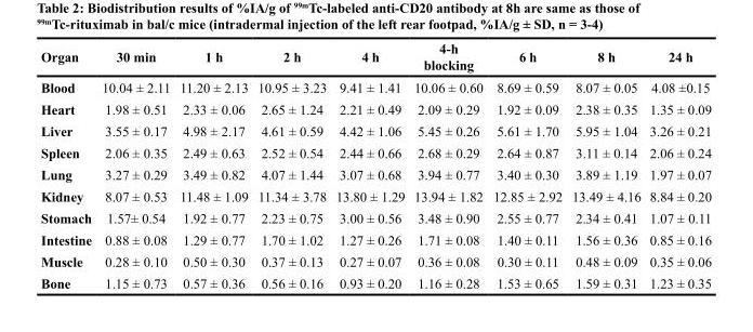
<table><thead><tr><td>Organ</td><td>30 min</td><td>1 h</td><td>2 h</td><td>4 h</td><td>4-h blocking</td><td>6 h</td><td>8 h</td><td>24 h</td></tr></thead><tbody><tr><td>Blood</td><td>10.04 ± 2.11</td><td>11.20 ± 2.13</td><td>10.95 ± 3.23</td><td>9.41 ± 1.41</td><td>10.06 ± 0.60</td><td>8.69 ± 0.59</td><td>8.07 ± 0.05</td><td>4.08 ±0.15</td></tr><tr><td>Heart</td><td>1.98 ± 0.51</td><td>2.33 ± 0.06</td><td>2.65 ± 1.24</td><td>2.21 ± 0.49</td><td>2.09 ± 0.29</td><td>1.92 ± 0.09</td><td>2.38 ± 0.35</td><td>1.35 ± 0.09</td></tr><tr><td>Liver</td><td>3.55 ± 0.17</td><td>4.98 ± 2.17</td><td>4.61 ± 0.59</td><td>4.42 ± 1.06</td><td>5.45 ± 0.26</td><td>5.61 ± 1.70</td><td>5.95 ± 1.04</td><td>3.26 ± 0.21</td></tr><tr><td>Spleen</td><td>2.06 ± 0.35</td><td>2.49 ± 0.63</td><td>2.52 ± 0.54</td><td>2.44 ± 0.66</td><td>2.68 ± 0.29</td><td>2.64 ± 0.87</td><td>3.11 ± 0.14</td><td>2.06 ± 0.24</td></tr><tr><td>Lung</td><td>3.27 ± 0.29</td><td>3.49 ± 0.82</td><td>4.07 ± 1.44</td><td>3.07 ± 0.68</td><td>3.94 ± 0.77</td><td>3.40 ± 0.30</td><td>3.89 ± 1.19</td><td>1.97 ± 0.07</td></tr><tr><td>Kidney</td><td>8.07 ± 0.53</td><td>11.48 ± 1.09</td><td>11.34 ± 3.78</td><td>13.80 ± 1.29</td><td>13.94 ± 1.82</td><td>12.85 ± 2.92</td><td>13.49 ± 4.16</td><td>8.84 ± 0.20</td></tr><tr><td>Stomach</td><td>1.57± 0.54</td><td>1.92 ± 0.77</td><td>2.23 ± 0.75</td><td>3.00 ± 0.56</td><td>3.48 ± 0.90</td><td>2.55 ± 0.77</td><td>2.34 ± 0.41</td><td>1.07 ± 0.11</td></tr><tr><td>Intestine</td><td>0.88 ± 0.08</td><td>1.29 ± 0.77</td><td>1.70 ± 1.02</td><td>1.27 ± 0.26</td><td>1.71 ± 0.08</td><td>1.40 ± 0.11</td><td>1.56 ± 0.36</td><td>0.85 ± 0.16</td></tr><tr><td>Muscle</td><td>0.28 ± 0.10</td><td>0.50 ± 0.30</td><td>0.37 ± 0.13</td><td>0.27 ± 0.07</td><td>0.36 ± 0.08</td><td>0.30 ± 0.11</td><td>0.48 ± 0.09</td><td>0.35 ± 0.06</td></tr><tr><td>Bone</td><td>1.15 ± 0.73</td><td>0.57 ± 0.36</td><td>0.56 ± 0.16</td><td>0.93 ± 0.20</td><td>1.16 ± 0.28</td><td>1.53 ± 0.65</td><td>1.59 ± 0.31</td><td>1.23 ± 0.35</td></tr></tbody></table>